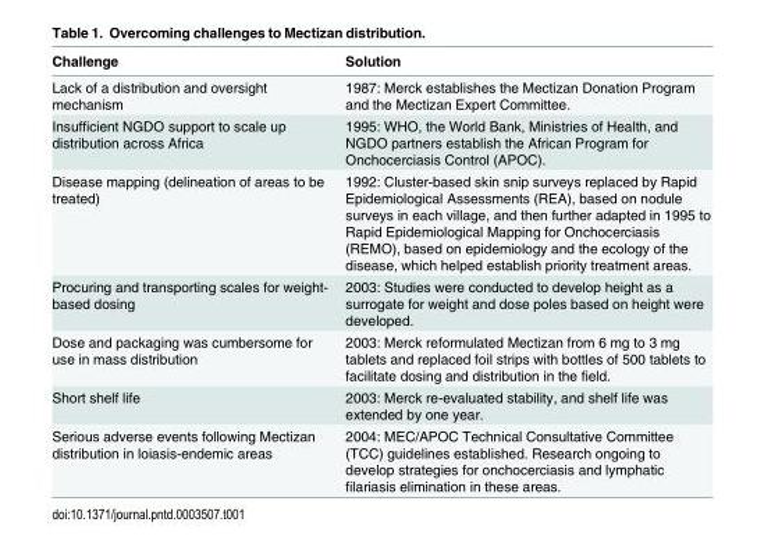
<table><thead><tr><td>Challenge</td><td>Solution</td></tr></thead><tbody><tr><td>Lack of a distribution and oversight mechanism</td><td>1987: Merck establishes the Mectizan Donation Program and the Mectizan Expert Committee.</td></tr><tr><td>Insufficient NGDO support to scale up distribution across Africa</td><td>1995: WHO, the World Bank, Ministries of Health, and NGDO partners establish the African Program for Onchocerciasis Control (APOC).</td></tr><tr><td>Disease mapping (delineation of areas to be treated)</td><td>1992: Cluster-based skin snip surveys replaced by Rapid Epidemiological Assessments (REA), based on nodule surveys in each village, and then further adapted in 1995 to Rapid Epidemiological Mapping for Onchocerciasis (REMO), based on epidemiology and the ecology of the disease, which helped establish priority treatment areas.</td></tr><tr><td>Procuring and transporting scales for weight- based dosing</td><td>2003: Studies were conducted to develop height as a surrogate for weight and dose poles based on height were developed.</td></tr><tr><td>Dose and packaging was cumbersome for use in mass distribution</td><td>2003: Merck reformulated Mectizan from 6 mg to 3 mg tablets and replaced foil strips with bottles of 500 tablets to facilitate dosing and distribution in the field.</td></tr><tr><td>Short shelf life</td><td>2003: Merck re-evaluated stability, and shelf life was extended by one year.</td></tr><tr><td>Serious adverse events following Mectizan distribution in loiasis-endemic areas</td><td>2004: MEC/APOC Technical Consultative Committee (TCC) guidelines established. Research ongoing to develop strategies for onchocerciasis and lymphatic filariasis elimination in these areas.</td></tr></tbody></table>